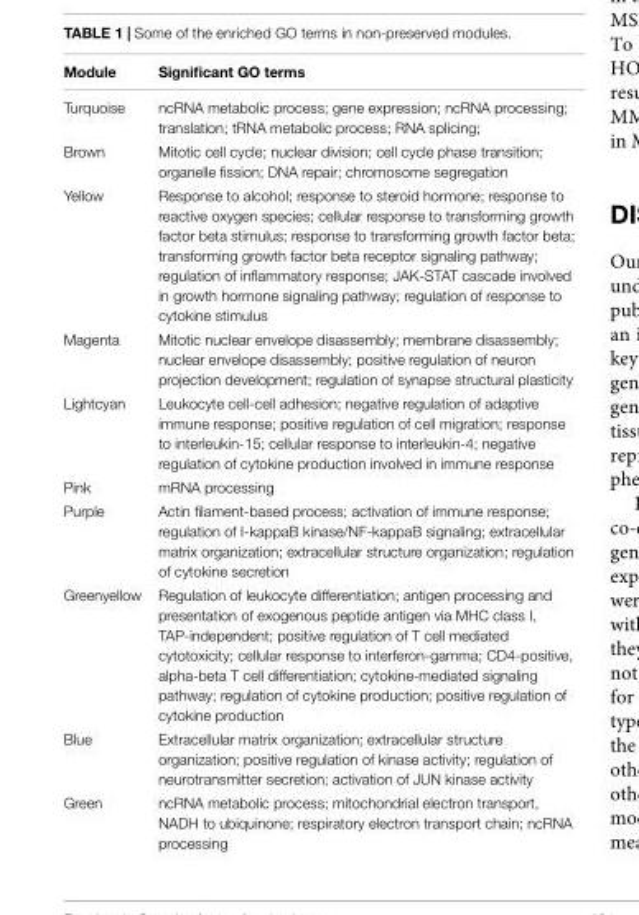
<table><thead><tr><td>Module</td><td>Significant GO terms</td></tr></thead><tbody><tr><td>Turquoise</td><td>ncRNA metabolic process; gene expression; ncRNA processing; translation; tRNA metabolic process; RNA splicing;</td></tr><tr><td>Brown</td><td>Mitotic cell cycle; nuclear division; cell cycle phase transition; organelle fission; DNA repair; chromosome segregation</td></tr><tr><td>Yellow</td><td>Response to alcohol; response to steroid hormone; response to reactive oxygen species; cellular response to transforming growth factor beta stimulus; response to transforming growth factor beta; transforming growth factor beta receptor signaling pathway; regulation of inflammatory response; JAK-STAT cascade involved in growth hormone signaling pathway; regulation of response to cytokine stimulus</td></tr><tr><td>Magenta</td><td>Mitotic nuclear envelope disassembly; membrane disassembly; nuclear envelope disassembly; positive regulation of neuron projection development; regulation of synapse structural plasticity</td></tr><tr><td>Lightcyan</td><td>Leukocyte cell-cell adhesion; negative regulation of adaptive immune response; positive regulation of cell migration; response to interleukin-15; cellular response to interleukin-4; negative regulation of cytokine production involved in immune response</td></tr><tr><td>Pink</td><td>mRNA processing</td></tr><tr><td>Purple</td><td>Actin filament-based process; activation of immune response; regulation of I-kappaB kinase/NF-kappaB signaling; extracellular matrix organization; extracellular structure organization; regulation of cytokine secretion</td></tr><tr><td>Greenyellow</td><td>Regulation of leukocyte differentiation; antigen processing and presentation of exogenous peptide antigen via MHC class I, TAP-independent; positive regulation of T cell mediated cytotoxicity; cellular response to interferon-gamma; CD4-positive, alpha-beta T cell differentiation; cytokine-mediated signaling pathway; regulation of cytokine production; positive regulation of cytokine production</td></tr><tr><td>Blue</td><td>Extracellular matrix organization; extracellular structure organization; positive regulation of kinase activity; regulation of neurotransmitter secretion; activation of JUN kinase activity</td></tr><tr><td>Green</td><td>ncRNA metabolic process; mitochondrial electron transport, NADH to ubiquinone; respiratory electron transport chain; ncRNA processing</td></tr></tbody></table>